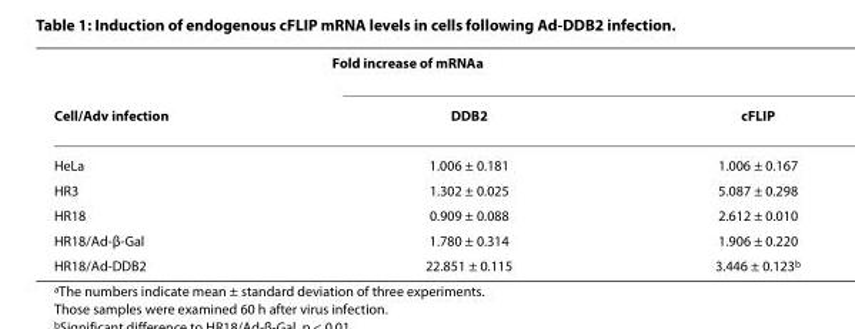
<table><thead><tr><td rowspan="2">Cell/Adv infection</td><td colspan="2">Fold increase of mRNA<sup>a</sup></td></tr><tr><td>DDB2</td><td>cFLIP</td></tr></thead><tbody><tr><td>HeLa</td><td>1.006 ± 0.181</td><td>1.006 ± 0.167</td></tr><tr><td>HR3</td><td>1.302 ± 0.025</td><td>5.087 ± 0.298</td></tr><tr><td>HR18</td><td>0.909 ± 0.088</td><td>2.612 ± 0.010</td></tr><tr><td>HR18/Ad-β-Gal</td><td>1.780 ± 0.314</td><td>1.906 ± 0.220</td></tr><tr><td>HR18/Ad-DDB2</td><td>22.851 ± 0.115</td><td>3.446 ± 0.123<sup>b</sup></td></tr></tbody></table>